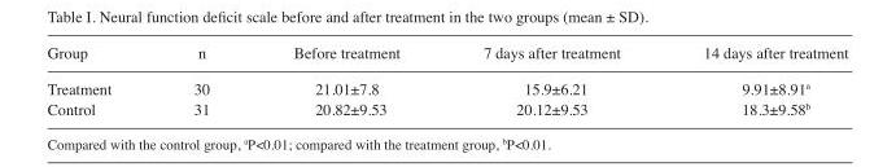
<table><thead><tr><td>Group</td><td>n</td><td>Before treatment</td><td>7 days after treatment</td><td>14 days after treatment</td></tr></thead><tbody><tr><td>Treatment</td><td>30</td><td>21.01±7.8</td><td>15.9±6.21</td><td>9.91±8.91<sup>a</sup></td></tr><tr><td>Control</td><td>31</td><td>20.82±9.53</td><td>20.12±9.53</td><td>18.3±9.58<sup>b</sup></td></tr></tbody></table>